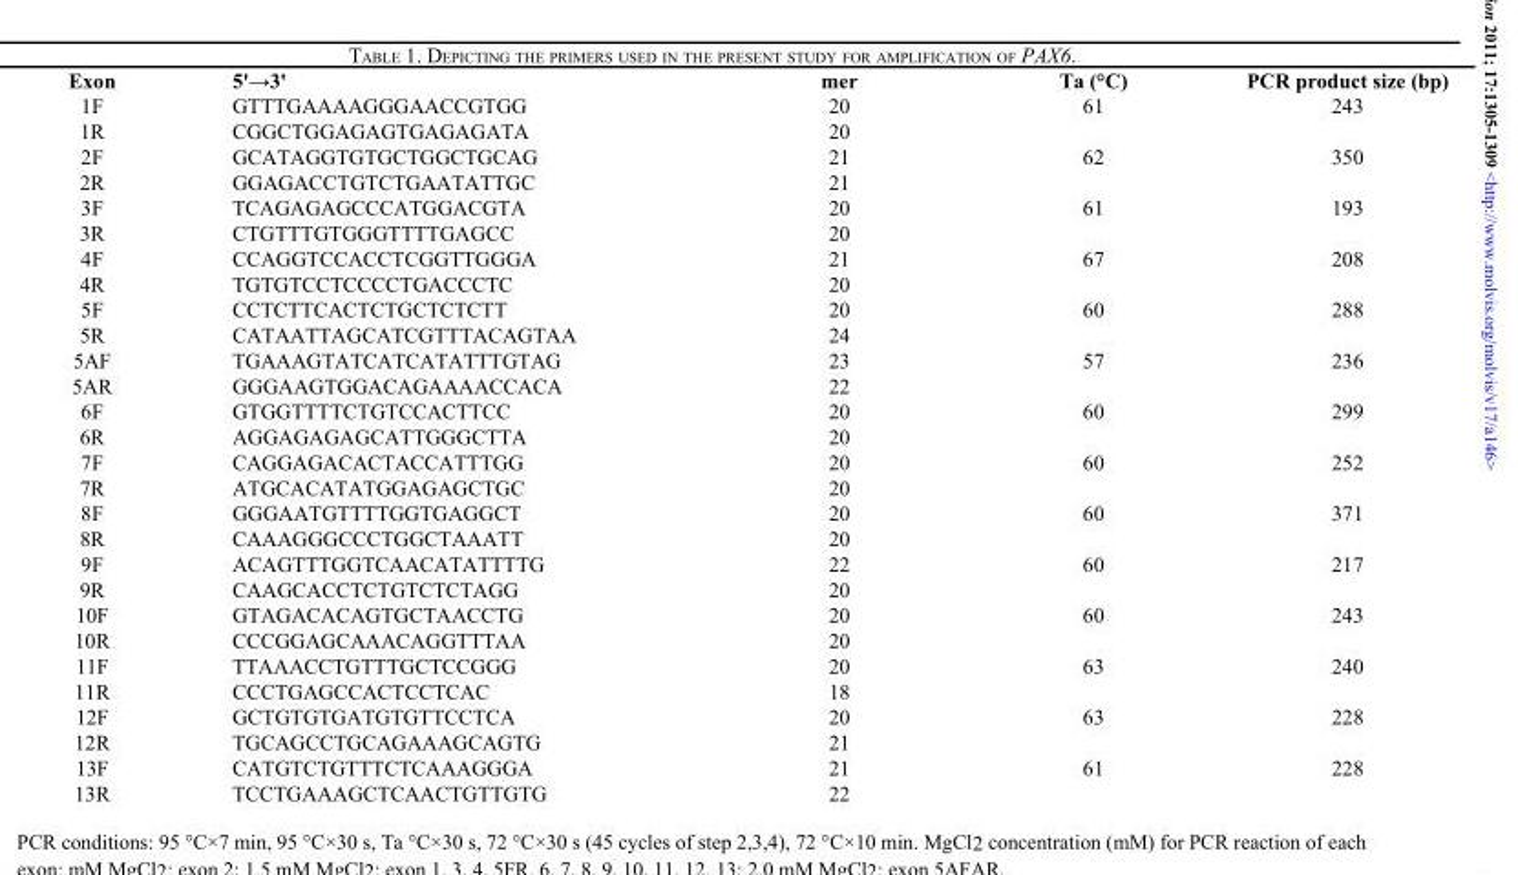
<table><thead><tr><td>Exon</td><td>5&#x27;→3&#x27;</td><td>mer</td><td>Ta (°C)</td><td>PCR product size (bp)</td></tr></thead><tbody><tr><td>1F</td><td>GTTTGAAAAGGGAACCGTGG</td><td>20</td><td>61</td><td>243</td></tr><tr><td>1R</td><td>CGGCTGGAGAGTGAGAGATA</td><td>20</td><td></td><td></td></tr><tr><td>2F</td><td>GCATAGGTGTGCTGGCTGCAG</td><td>21</td><td>62</td><td>350</td></tr><tr><td>2R</td><td>GGAGACCTGTCTGAATATTGC</td><td>21</td><td></td><td></td></tr><tr><td>3F</td><td>TCAGAGAGCCCATGGACGTA</td><td>20</td><td>61</td><td>193</td></tr><tr><td>3R</td><td>CTGTTTGTGGGTTTTGAGCC</td><td>20</td><td></td><td></td></tr><tr><td>4F</td><td>CCAGGTCCACCTCGGTTGGGA</td><td>21</td><td>67</td><td>208</td></tr><tr><td>4R</td><td>TGTGTCCTCCCCTGACCCTC</td><td>20</td><td></td><td></td></tr><tr><td>5F</td><td>CCTCTTCACTCTGCTCTCTT</td><td>20</td><td>60</td><td>288</td></tr><tr><td>5R</td><td>CATAATTAGCATCGTTTACAGTAA</td><td>24</td><td></td><td></td></tr><tr><td>5AF</td><td>TGAAAGTATCATCATATTTGTAG</td><td>23</td><td>57</td><td>236</td></tr><tr><td>5AR</td><td>GGGAAGTGGACAGAAAACCACA</td><td>22</td><td></td><td></td></tr><tr><td>6F</td><td>GTGGTTTTCTGTCCACTTCC</td><td>20</td><td>60</td><td>299</td></tr><tr><td>6R</td><td>AGGAGAGAGCATTGGGCTTA</td><td>20</td><td></td><td></td></tr><tr><td>7F</td><td>CAGGAGACACTACCATTTGG</td><td>20</td><td>60</td><td>252</td></tr><tr><td>7R</td><td>ATGCACATATGGAGAGCTGC</td><td>20</td><td></td><td></td></tr><tr><td>8F</td><td>GGGAATGTTTTGGTGAGGCT</td><td>20</td><td>60</td><td>371</td></tr><tr><td>8R</td><td>CAAAGGGCCCTGGCTAAATT</td><td>20</td><td></td><td></td></tr><tr><td>9F</td><td>ACAGTTTGGTCAACATATTTTG</td><td>22</td><td>60</td><td>217</td></tr><tr><td>9R</td><td>CAAGCACCTCTGTCTCTAGG</td><td>20</td><td></td><td></td></tr><tr><td>10F</td><td>GTAGACACAGTGCTAACCTG</td><td>20</td><td>60</td><td>243</td></tr><tr><td>10R</td><td>CCCGGAGCAAACAGGTTTAA</td><td>20</td><td></td><td></td></tr><tr><td>11F</td><td>TTAAACCTGTTTGCTCCGGG</td><td>20</td><td>63</td><td>240</td></tr><tr><td>11R</td><td>CCCTGAGCCACTCCTCAC</td><td>18</td><td></td><td></td></tr><tr><td>12F</td><td>GCTGTGTGATGTGTTCCTCA</td><td>20</td><td>63</td><td>228</td></tr><tr><td>12R</td><td>TGCAGCCTGCAGAAAGCAGTG</td><td>21</td><td></td><td></td></tr><tr><td>13F</td><td>CATGTCTGTTTCTCAAAGGGA</td><td>21</td><td>61</td><td>228</td></tr><tr><td>13R</td><td>TCCTGAAAGCTCAACTGTTGTG</td><td>22</td><td></td><td></td></tr></tbody></table>